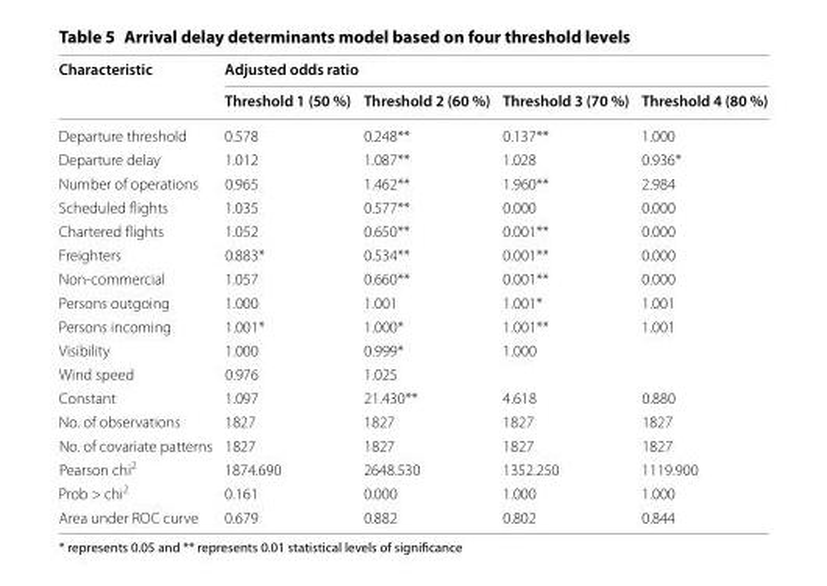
<table><thead><tr><td rowspan="2">Characteristic</td><td colspan="4">Adjusted odds ratio</td></tr><tr><td>Threshold 1 (50 %)</td><td>Threshold 2 (60 %)</td><td>Threshold 3 (70 %)</td><td>Threshold 4 (80 %)</td></tr></thead><tbody><tr><td>Departure threshold</td><td>0.578</td><td>0.248**</td><td>0.137**</td><td>1.000</td></tr><tr><td>Departure delay</td><td>1.012</td><td>1.087**</td><td>1.028</td><td>0.936*</td></tr><tr><td>Number of operations</td><td>0.965</td><td>1.462**</td><td>1.960**</td><td>2.984</td></tr><tr><td>Scheduled flights</td><td>1.035</td><td>0.577**</td><td>0.000</td><td>0.000</td></tr><tr><td>Chartered flights</td><td>1.052</td><td>0.650**</td><td>0.001**</td><td>0.000</td></tr><tr><td>Freighters</td><td>0.883*</td><td>0.534**</td><td>0.001**</td><td>0.000</td></tr><tr><td>Non-commercial</td><td>1.057</td><td>0.660**</td><td>0.001**</td><td>0.000</td></tr><tr><td>Persons outgoing</td><td>1.000</td><td>1.001</td><td>1.001*</td><td>1.001</td></tr><tr><td>Persons incoming</td><td>1.001*</td><td>1.000*</td><td>1.001**</td><td>1.001</td></tr><tr><td>Visibility</td><td>1.000</td><td>0.999*</td><td>1.000</td><td></td></tr><tr><td>Wind speed</td><td>0.976</td><td>1.025</td><td></td><td></td></tr><tr><td>Constant</td><td>1.097</td><td>21.430**</td><td>4.618</td><td>0.880</td></tr><tr><td>No. of observations</td><td>1827</td><td>1827</td><td>1827</td><td>1827</td></tr><tr><td>No. of covariate patterns</td><td>1827</td><td>1827</td><td>1827</td><td>1827</td></tr><tr><td>Pearson chi<sup>2</sup></td><td>1874.690</td><td>2648.530</td><td>1352.250</td><td>1119.900</td></tr><tr><td>Prob &gt; chi<sup>2</sup></td><td>0.161</td><td>0.000</td><td>1.000</td><td>1.000</td></tr><tr><td>Area under ROC curve</td><td>0.679</td><td>0.882</td><td>0.802</td><td>0.844</td></tr></tbody></table>